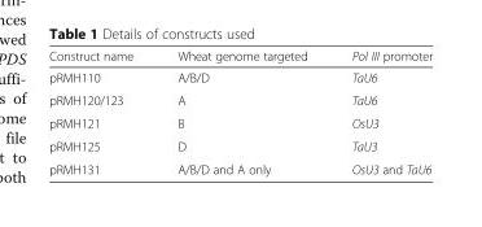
<table><thead><tr><td>Construct name</td><td>Wheat genome targeted</td><td>Pol III promoter</td></tr></thead><tbody><tr><td>pRMH110</td><td>A/B/D</td><td>TaU6</td></tr><tr><td>pRMH120/123</td><td>A</td><td>TaU6</td></tr><tr><td>pRMH121</td><td>B</td><td>OsU3</td></tr><tr><td>pRMH125</td><td>D</td><td>TaU3</td></tr><tr><td>pRMH131</td><td>A/B/D and A only</td><td>OsU3 and TaU6</td></tr></tbody></table>